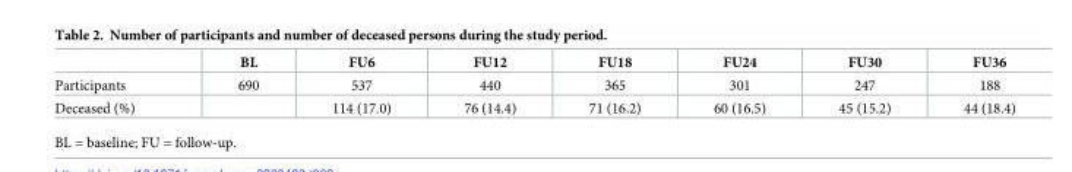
<table><thead><tr><td></td><td>BL</td><td>FU6</td><td>FU12</td><td>FU18</td><td>FU24</td><td>FU30</td><td>FU36</td></tr></thead><tbody><tr><td>Participants</td><td>690</td><td>537</td><td>440</td><td>365</td><td>301</td><td>247</td><td>188</td></tr><tr><td>Deceased (%)</td><td></td><td>114 (17.0)</td><td>76 (14.4)</td><td>71 (16.2)</td><td>60 (16.5)</td><td>45 (15.2)</td><td>44 (18.4)</td></tr></tbody></table>